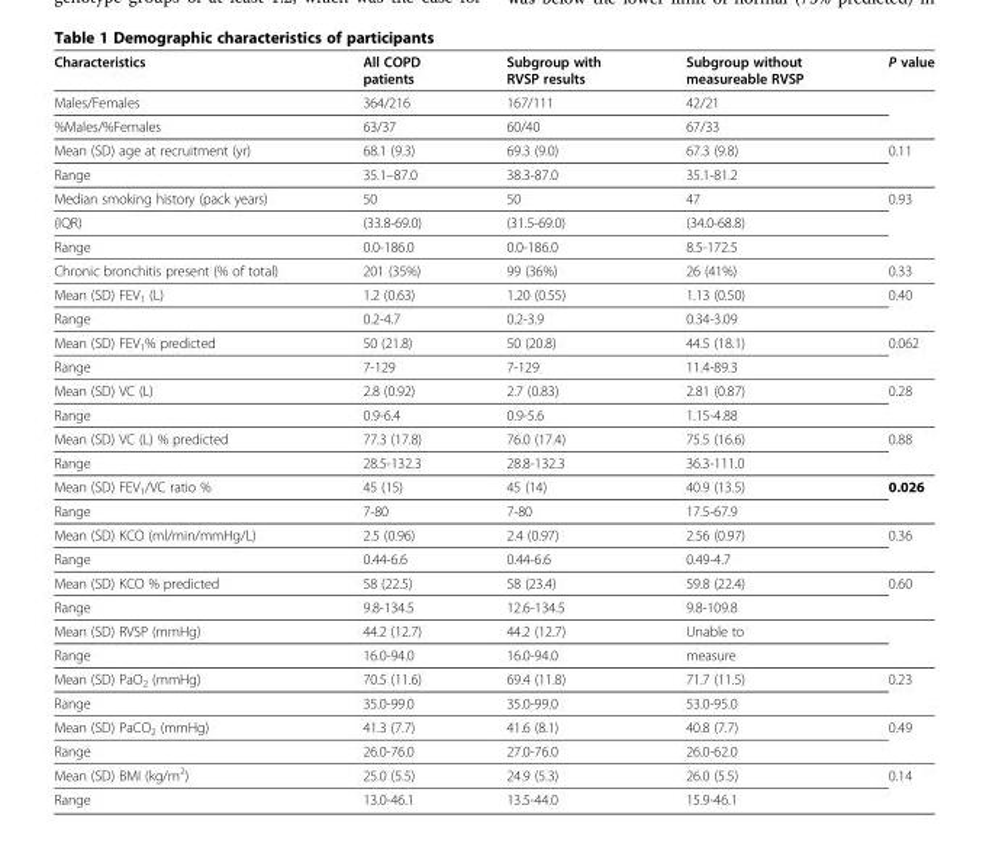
<table><thead><tr><td>Characteristics</td><td>All COPD patients</td><td>Subgroup with RVSP results</td><td>Subgroup without measureable RVSP</td><td>P value</td></tr></thead><tbody><tr><td>Males/Females</td><td>364/216</td><td>167/111</td><td>42/21</td><td></td></tr><tr><td>%Males/%Females</td><td>63/37</td><td>60/40</td><td>67/33</td><td></td></tr><tr><td>Mean (SD) age at recruitment (yr)</td><td>68.1 (9.3)</td><td>69.3 (9.0)</td><td>67.3 (9.8)</td><td>0.11</td></tr><tr><td>Range</td><td>35.1–87.0</td><td>38.3-87.0</td><td>35.1-81.2</td><td></td></tr><tr><td>Median smoking history (pack years)</td><td>50</td><td>50</td><td>47</td><td>0.93</td></tr><tr><td>(IQR)</td><td>(33.8-69.0)</td><td>(31.5-69.0)</td><td>(34.0-68.8)</td><td></td></tr><tr><td>Range</td><td>0.0-186.0</td><td>0.0-186.0</td><td>8.5-172.5</td><td></td></tr><tr><td>Chronic bronchitis present (% of total)</td><td>201 (35%)</td><td>99 (36%)</td><td>26 (41%)</td><td>0.33</td></tr><tr><td>Mean (SD) FEV<sub>1</sub> (L)</td><td>1.2 (0.63)</td><td>1.20 (0.55)</td><td>1.13 (0.50)</td><td>0.40</td></tr><tr><td>Range</td><td>0.2-4.7</td><td>0.2-3.9</td><td>0.34-3.09</td><td></td></tr><tr><td>Mean (SD) FEV<sub>1</sub>% predicted</td><td>50 (21.8)</td><td>50 (20.8)</td><td>44.5 (18.1)</td><td>0.062</td></tr><tr><td>Range</td><td>7-129</td><td>7-129</td><td>11.4-89.3</td><td></td></tr><tr><td>Mean (SD) VC (L)</td><td>2.8 (0.92)</td><td>2.7 (0.83)</td><td>2.81 (0.87)</td><td>0.28</td></tr><tr><td>Range</td><td>0.9-6.4</td><td>0.9-5.6</td><td>1.15-4.88</td><td></td></tr><tr><td>Mean (SD) VC (L) % predicted</td><td>77.3 (17.8)</td><td>76.0 (17.4)</td><td>75.5 (16.6)</td><td>0.88</td></tr><tr><td>Range</td><td>28.5-132.3</td><td>28.8-132.3</td><td>36.3-111.0</td><td></td></tr><tr><td>Mean (SD) FEV<sub>1</sub>/VC ratio %</td><td>45 (15)</td><td>45 (14)</td><td>40.9 (13.5)</td><td>0.026</td></tr><tr><td>Range</td><td>7-80</td><td>7-80</td><td>17.5-67.9</td><td></td></tr><tr><td>Mean (SD) KCO (ml/min/mmHg/L)</td><td>2.5 (0.96)</td><td>2.4 (0.97)</td><td>2.56 (0.97)</td><td>0.36</td></tr><tr><td>Range</td><td>0.44-6.6</td><td>0.44-6.6</td><td>0.49-4.7</td><td></td></tr><tr><td>Mean (SD) KCO % predicted</td><td>58 (22.5)</td><td>58 (23.4)</td><td>59.8 (22.4)</td><td>0.60</td></tr><tr><td>Range</td><td>9.8-134.5</td><td>12.6-134.5</td><td>9.8-109.8</td><td></td></tr><tr><td>Mean (SD) RVSP (mmHg)</td><td>44.2 (12.7)</td><td>44.2 (12.7)</td><td>Unable to</td><td></td></tr><tr><td>Range</td><td>16.0-94.0</td><td>16.0-94.0</td><td>measure</td><td></td></tr><tr><td>Mean (SD) PaO<sub>2</sub> (mmHg)</td><td>70.5 (11.6)</td><td>69.4 (11.8)</td><td>71.7 (11.5)</td><td>0.23</td></tr><tr><td>Range</td><td>35.0-99.0</td><td>35.0-99.0</td><td>53.0-95.0</td><td></td></tr><tr><td>Mean (SD) PaCO<sub>2</sub> (mmHg)</td><td>41.3 (7.7)</td><td>41.6 (8.1)</td><td>40.8 (7.7)</td><td>0.49</td></tr><tr><td>Range</td><td>26.0-76.0</td><td>27.0-76.0</td><td>26.0-62.0</td><td></td></tr><tr><td>Mean (SD) BMI (kg/m<sup>2</sup>)</td><td>25.0 (5.5)</td><td>24.9 (5.3)</td><td>26.0 (5.5)</td><td>0.14</td></tr><tr><td>Range</td><td>13.0-46.1</td><td>13.5-44.0</td><td>15.9-46.1</td><td></td></tr></tbody></table>